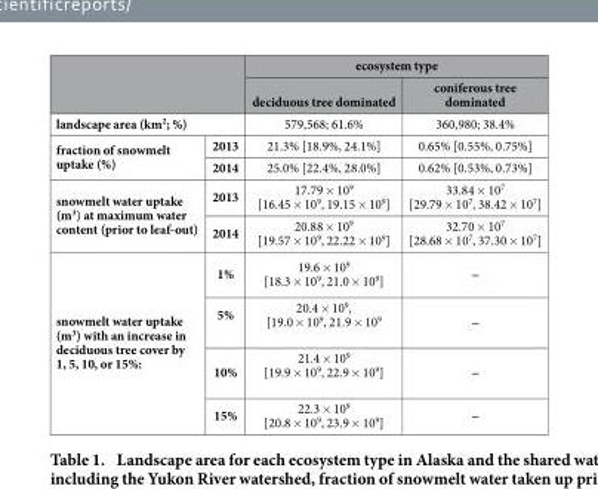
<table><thead><tr><td rowspan="2"></td><td rowspan="2"></td><td colspan="2">ecosystem type</td></tr><tr><td>deciduous tree dominated</td><td>coniferous tree dominated</td></tr></thead><tbody><tr><td colspan="2">landscape area (km<sup>2</sup>; %)</td><td>579,568; 61.6%</td><td>360,980; 38.4%</td></tr><tr><td rowspan="2">fraction of snowmelt uptake (%)</td><td>2013</td><td>21.3% [18.9%, 24.1%]</td><td>0.65% [0.55%, 0.75%]</td></tr><tr><td>2014</td><td>25.0% [22.4%, 28.0%]</td><td>0.62% [0.53%, 0.73%]</td></tr><tr><td rowspan="2">snowmelt water uptake (m<sup>3</sup>) at maximum water content (prior to leaf-out)</td><td>2013</td><td>17.79 × 10<sup>9</sup> [16.45 × 10<sup>9</sup>, 19.15 × 10<sup>9</sup>]</td><td>33.84 × 10<sup>7</sup> [29.79 × 10<sup>7</sup>, 38.42 × 10<sup>7</sup>]</td></tr><tr><td>2014</td><td>20.88 × 10<sup>9</sup> [19.57 × 10<sup>9</sup>, 22.22 × 10<sup>9</sup>]</td><td>32.70 × 10<sup>7</sup> [28.68 × 10<sup>7</sup>, 37.30 × 10<sup>7</sup>]</td></tr><tr><td rowspan="4">snowmelt water uptake (m<sup>3</sup>) with an increase in deciduous tree cover by 1, 5, 10, or 15%:</td><td>1%</td><td>19.6 × 10<sup>9</sup> [18.3 × 10<sup>9</sup>, 21.0 × 10<sup>9</sup>]</td><td>‒</td></tr><tr><td>5%</td><td>20.4 × 10<sup>9</sup>, [19.0 × 10<sup>9</sup>, 21.9 × 10<sup>9</sup></td><td>‒</td></tr><tr><td>10%</td><td>21.4 × 10<sup>9</sup> [19.9 × 10<sup>9</sup>, 22.9 × 10<sup>9</sup>]</td><td>‒</td></tr><tr><td>15%</td><td>22.3 × 109 [20.8 × 109, 23.9 × 109]</td><td>‒</td></tr></tbody></table>